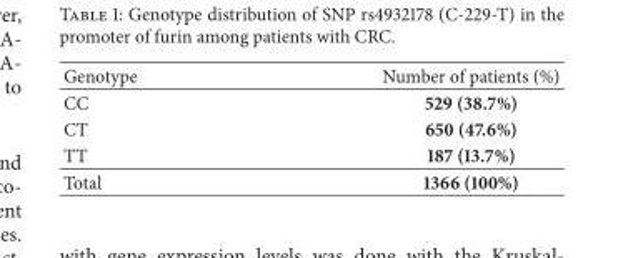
<table><thead><tr><td>Genotype</td><td>Number of patients (%)</td></tr></thead><tbody><tr><td>CC</td><td>529 (38.7%)</td></tr><tr><td>CT</td><td>650 (47.6%)</td></tr><tr><td>TT</td><td>187 (13.7%)</td></tr><tr><td>Total</td><td>1366 (100%)</td></tr></tbody></table>